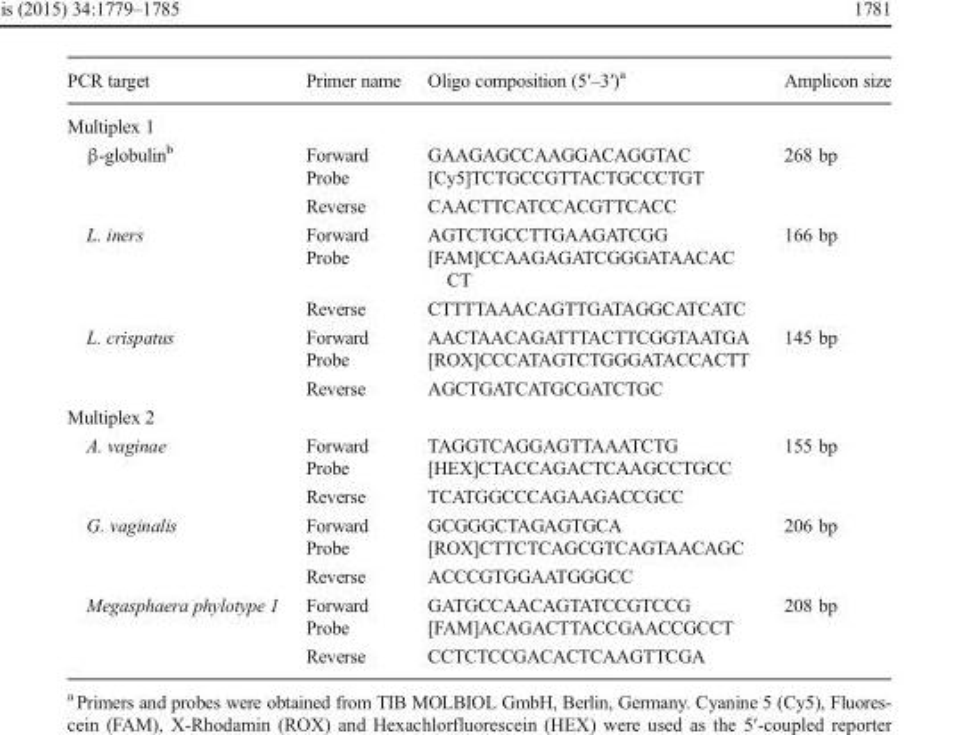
<table><thead><tr><td>PCR target</td><td>Primer name</td><td>Oligo composition (5′–3′)<sup>a</sup></td><td>Amplicon size</td></tr></thead><tbody><tr><td colspan="4">Multiplex 1</td></tr><tr><td rowspan="3">β-globulin<sup>b</sup></td><td>Forward</td><td>GAAGAGCCAAGGACAGGTAC</td><td rowspan="3">268 bp</td></tr><tr><td>Probe</td><td>[Cy5]TCTGCCGTTACTGCCCTGT</td></tr><tr><td>Reverse</td><td>CAACTTCATCCACGTTCACC</td></tr><tr><td rowspan="3">L. iners</td><td>Forward</td><td>AGTCTGCCTTGAAGATCGG</td><td rowspan="3">166 bp</td></tr><tr><td>Probe</td><td>[FAM]CCAAGAGATCGGGATAACAC CT</td></tr><tr><td>Reverse</td><td>CTTTTAAACAGTTGATAGGCATCATC</td></tr><tr><td rowspan="3">L. crispatus</td><td>Forward</td><td>AACTAACAGATTTACTTCGGTAATGA</td><td rowspan="3">145 bp</td></tr><tr><td>Probe</td><td>[ROX]CCCATAGTCTGGGATACCACTT</td></tr><tr><td>Reverse</td><td>AGCTGATCATGCGATCTGC</td></tr><tr><td colspan="4">Multiplex 2</td></tr><tr><td rowspan="3">A. vaginae</td><td>Forward</td><td>TAGGTCAGGAGTTAAATCTG</td><td rowspan="3">155 bp</td></tr><tr><td>Probe</td><td>[HEX]CTACCAGACTCAAGCCTGCC</td></tr><tr><td>Reverse</td><td>TCATGGCCCAGAAGACCGCC</td></tr><tr><td rowspan="3">G. vaginalis</td><td>Forward</td><td>GCGGGCTAGAGTGCA</td><td rowspan="3">206 bp</td></tr><tr><td>Probe</td><td>[ROX]CTTCTCAGCGTCAGTAACAGC</td></tr><tr><td>Reverse</td><td>ACCCGTGGAATGGGCC</td></tr><tr><td rowspan="3">Megasphaera phylotype 1</td><td>Forward</td><td>GATGCCAACAGTATCCGTCCG</td><td rowspan="3">208 bp</td></tr><tr><td>Probe</td><td>[FAM]ACAGACTTACCGAACCGCCT</td></tr><tr><td>Reverse</td><td>CCTCTCCGACACTCAAGTTCGA</td></tr></tbody></table>